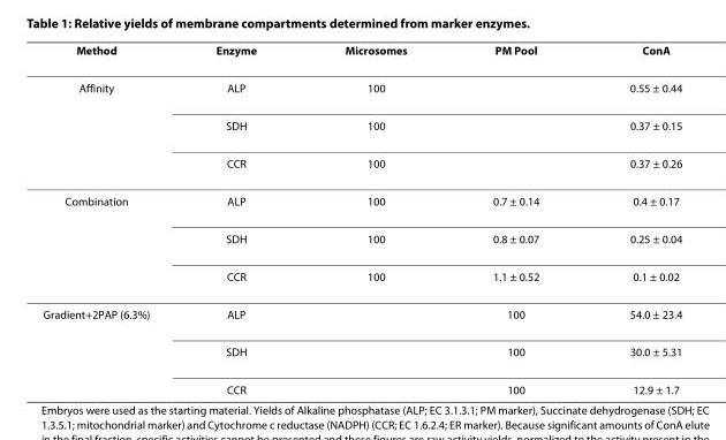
<table><thead><tr><td>Method</td><td>Enzyme</td><td>Microsomes</td><td>PM Pool</td><td>ConA</td></tr></thead><tbody><tr><td rowspan="3">Affinity</td><td>ALP</td><td>100</td><td></td><td>0.55 ± 0.44</td></tr><tr><td>SDH</td><td>100</td><td></td><td>0.37 ± 0.15</td></tr><tr><td>CCR</td><td>100</td><td></td><td>0.37 ± 0.26</td></tr><tr><td rowspan="3">Combination</td><td>ALP</td><td>100</td><td>0.7 ± 0.14</td><td>0.4 ± 0.17</td></tr><tr><td>SDH</td><td>100</td><td>0.8 ± 0.07</td><td>0.25 ± 0.04</td></tr><tr><td>CCR</td><td>100</td><td>1.1 ± 0.52</td><td>0.1 ± 0.02</td></tr><tr><td rowspan="3">Gradient+2PAP (6.3%)</td><td>ALP</td><td></td><td>100</td><td>54.0 ± 23.4</td></tr><tr><td>SDH</td><td></td><td>100</td><td>30.0 ± 5.31</td></tr><tr><td>CCR</td><td></td><td>100</td><td>12.9 ± 1.7</td></tr></tbody></table>